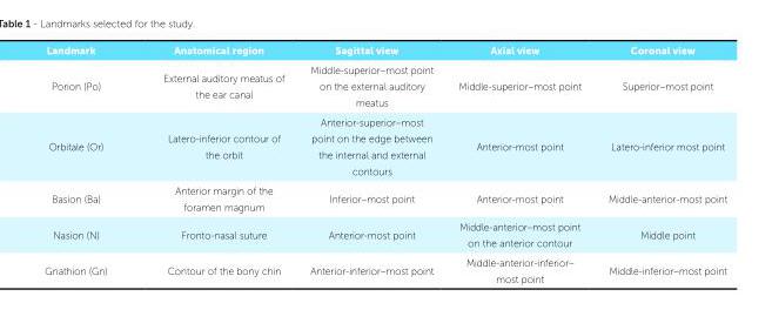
<table><tbody><tr><td>Landmark</td><td>Anatomical region</td><td>Sagittal view</td><td>Axial view</td><td>Coronal view</td></tr><tr><td>Porion (Po)</td><td>External auditory meatus of the ear canal</td><td>Middle-superior–most point on the external auditory meatus</td><td>Middle-superior–most point</td><td>Superior–most point</td></tr><tr><td>Orbitale (Or)</td><td>Latero-inferior contour of the orbit</td><td>Anterior-superior–most point on the edge between the internal and external contours</td><td>Anterior-most point</td><td>Latero-inferior most point</td></tr><tr><td>Basion (Ba)</td><td>Anterior margin of the foramen magnum</td><td>Inferior–most point</td><td>Anterior-most point</td><td>Middle-anterior-most point</td></tr><tr><td>Nasion (N)</td><td>Fronto-nasal suture</td><td>Anterior-most point</td><td>Middle-anterior–most point on the anterior contour</td><td>Middle point</td></tr><tr><td>Gnathion (Gn)</td><td>Contour of the bony chin</td><td>Anterior-inferior–most point</td><td>Middle-anterior-inferior– most point</td><td>Middle-inferior–most point</td></tr></tbody></table>